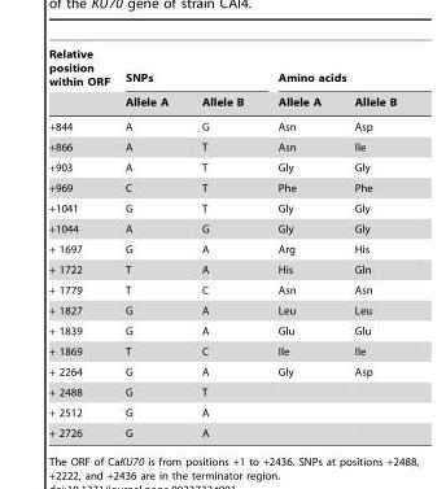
<table><thead><tr><td rowspan="2">Relative position within ORF</td><td colspan="2">SNPs</td><td colspan="2">Amino acids</td></tr><tr><td>Allele A</td><td>Allele B</td><td>Allele A</td><td>Allele B</td></tr></thead><tbody><tr><td>+844</td><td>A</td><td>G</td><td>Asn</td><td>Asp</td></tr><tr><td>+866</td><td>A</td><td>T</td><td>Asn</td><td>Ile</td></tr><tr><td>+903</td><td>A</td><td>T</td><td>Gly</td><td>Gly</td></tr><tr><td>+969</td><td>C</td><td>T</td><td>Phe</td><td>Phe</td></tr><tr><td>+1041</td><td>G</td><td>T</td><td>Gly</td><td>Gly</td></tr><tr><td>+1044</td><td>A</td><td>G</td><td>Gly</td><td>Gly</td></tr><tr><td>+ 1697</td><td>G</td><td>A</td><td>Arg</td><td>His</td></tr><tr><td>+ 1722</td><td>T</td><td>A</td><td>His</td><td>Gln</td></tr><tr><td>+ 1779</td><td>T</td><td>C</td><td>Asn</td><td>Asn</td></tr><tr><td>+ 1827</td><td>G</td><td>A</td><td>Leu</td><td>Leu</td></tr><tr><td>+ 1839</td><td>G</td><td>A</td><td>Glu</td><td>Glu</td></tr><tr><td>+ 1869</td><td>T</td><td>C</td><td>Ile</td><td>Ile</td></tr><tr><td>+ 2264</td><td>G</td><td>A</td><td>Gly</td><td>Asp</td></tr><tr><td>+ 2488</td><td>G</td><td>T</td><td></td><td></td></tr><tr><td>+ 2512</td><td>G</td><td>A</td><td></td><td></td></tr><tr><td>+ 2726</td><td>G</td><td>A</td><td></td><td></td></tr></tbody></table>